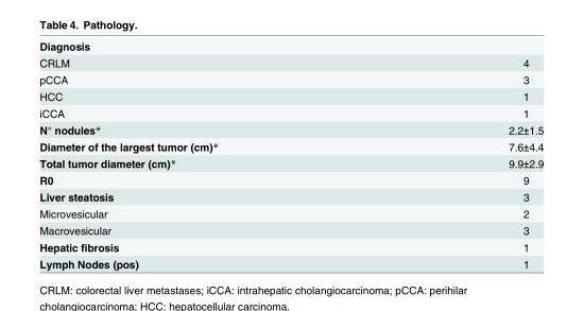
<table><tbody><tr><td colspan="2">Diagnosis</td></tr><tr><td>CRLM</td><td>4</td></tr><tr><td>pCCA</td><td>3</td></tr><tr><td>HCC</td><td>1</td></tr><tr><td>iCCA</td><td>1</td></tr><tr><td>N° nodules*</td><td>2.2±1.5</td></tr><tr><td>Diameter of the largest tumor (cm)*</td><td>7.6±4.4</td></tr><tr><td>Total tumor diameter (cm)*</td><td>9.9±2.9</td></tr><tr><td>R0</td><td>9</td></tr><tr><td>Liver steatosis</td><td>3</td></tr><tr><td>Microvesicular</td><td>2</td></tr><tr><td>Macrovesicular</td><td>3</td></tr><tr><td>Hepatic fibrosis</td><td>1</td></tr><tr><td>Lymph Nodes (pos)</td><td>1</td></tr></tbody></table>